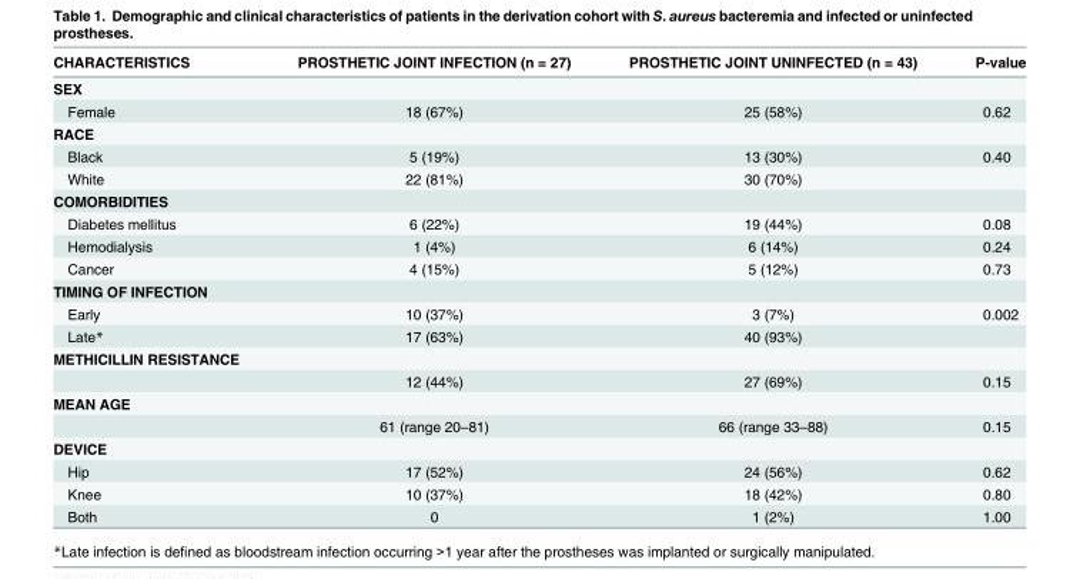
<table><thead><tr><td>CHARACTERISTICS</td><td>PROSTHETIC JOINT INFECTION (n = 27)</td><td>PROSTHETIC JOINT UNINFECTED (n = 43)</td><td>P-value</td></tr></thead><tbody><tr><td colspan="4">SEX</td></tr><tr><td>Female</td><td>18 (67%)</td><td>25 (58%)</td><td>0.62</td></tr><tr><td colspan="4">RACE</td></tr><tr><td>Black</td><td>5 (19%)</td><td>13 (30%)</td><td>0.40</td></tr><tr><td>White</td><td>22 (81%)</td><td>30 (70%)</td><td></td></tr><tr><td colspan="4">COMORBIDITIES</td></tr><tr><td>Diabetes mellitus</td><td>6 (22%)</td><td>19 (44%)</td><td>0.08</td></tr><tr><td>Hemodialysis</td><td>1 (4%)</td><td>6 (14%)</td><td>0.24</td></tr><tr><td>Cancer</td><td>4 (15%)</td><td>5 (12%)</td><td>0.73</td></tr><tr><td colspan="4">TIMING OF INFECTION</td></tr><tr><td>Early</td><td>10 (37%)</td><td>3 (7%)</td><td>0.002</td></tr><tr><td>Late*</td><td>17 (63%)</td><td>40 (93%)</td><td></td></tr><tr><td colspan="4">METHICILLIN RESISTANCE</td></tr><tr><td></td><td>12 (44%)</td><td>27 (69%)</td><td>0.15</td></tr><tr><td colspan="4">MEAN AGE</td></tr><tr><td></td><td>61 (range 20–81)</td><td>66 (range 33–88)</td><td>0.15</td></tr><tr><td colspan="4">DEVICE</td></tr><tr><td>Hip</td><td>17 (52%)</td><td>24 (56%)</td><td>0.62</td></tr><tr><td>Knee</td><td>10 (37%)</td><td>18 (42%)</td><td>0.80</td></tr><tr><td>Both</td><td>0</td><td>1 (2%)</td><td>1.00</td></tr></tbody></table>